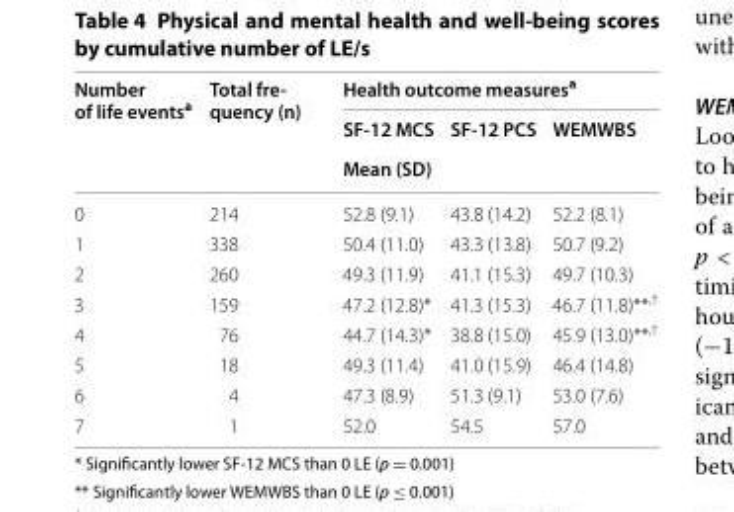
<table><thead><tr><td rowspan="3">Number of life events<sup>a</sup></td><td rowspan="3">Total fre- quency (n)</td><td colspan="3">Health outcome measures<sup>a</sup></td></tr><tr><td>SF-12 MCS</td><td>SF-12 PCS</td><td>WEMWBS</td></tr><tr><td colspan="3">Mean (SD)</td></tr></thead><tbody><tr><td>0</td><td>214</td><td>52.8 (9.1)</td><td>43.8 (14.2)</td><td>52.2 (8.1)</td></tr><tr><td>1</td><td>338</td><td>50.4 (11.0)</td><td>43.3 (13.8)</td><td>50.7 (9.2)</td></tr><tr><td>2</td><td>260</td><td>49.3 (11.9)</td><td>41.1 (15.3)</td><td>49.7 (10.3)</td></tr><tr><td>3</td><td>159</td><td>47.2 (12.8)*</td><td>41.3 (15.3)</td><td>46.7 (11.8)**<sup>,†</sup></td></tr><tr><td>4</td><td>76</td><td>44.7 (14.3)*</td><td>38.8 (15.0)</td><td>45.9 (13.0)**<sup>,†</sup></td></tr><tr><td>5</td><td>18</td><td>49.3 (11.4)</td><td>41.0 (15.9)</td><td>46.4 (14.8)</td></tr><tr><td>6</td><td>4</td><td>47.3 (8.9)</td><td>51.3 (9.1)</td><td>53.0 (7.6)</td></tr><tr><td>7</td><td>1</td><td>52.0</td><td>54.5</td><td>57.0</td></tr></tbody></table>